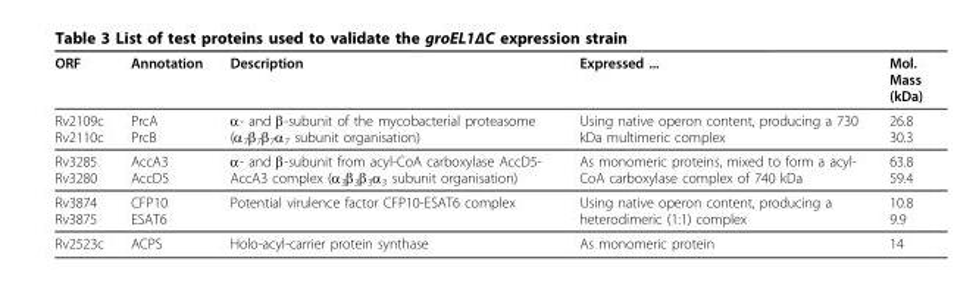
<table><thead><tr><td>ORF</td><td>Annotation</td><td>Description</td><td>Expressed ...</td><td>Mol. Mass (kDa)</td></tr></thead><tbody><tr><td>Rv2109c Rv2110c</td><td>PrcA PrcB</td><td>α- and β-subunit of the mycobacterial proteasome (α<sub>7</sub>β<sub>7</sub>β<sub>7</sub>α<sub>7</sub> subunit organisation)</td><td>Using native operon content, producing a 730 kDa multimeric complex</td><td>26.8 30.3</td></tr><tr><td>Rv3285 Rv3280</td><td>AccA3 AccD5</td><td>α- and β-subunit from acyl-CoA carboxylase AccD5- AccA3 complex (α<sub>3</sub>β<sub>3</sub>β<sub>3</sub>α<sub>3</sub> subunit organisation)</td><td>As monomeric proteins, mixed to form a acyl- CoA carboxylase complex of 740 kDa</td><td>63.8 59.4</td></tr><tr><td>Rv3874 Rv3875</td><td>CFP10 ESAT6</td><td>Potential virulence factor CFP10-ESAT6 complex</td><td>Using native operon content, producing a heterodimeric (1:1) complex</td><td>10.8 9.9</td></tr><tr><td>Rv2523c</td><td>ACPS</td><td>Holo-acyl-carrier protein synthase</td><td>As monomeric protein</td><td>14</td></tr></tbody></table>